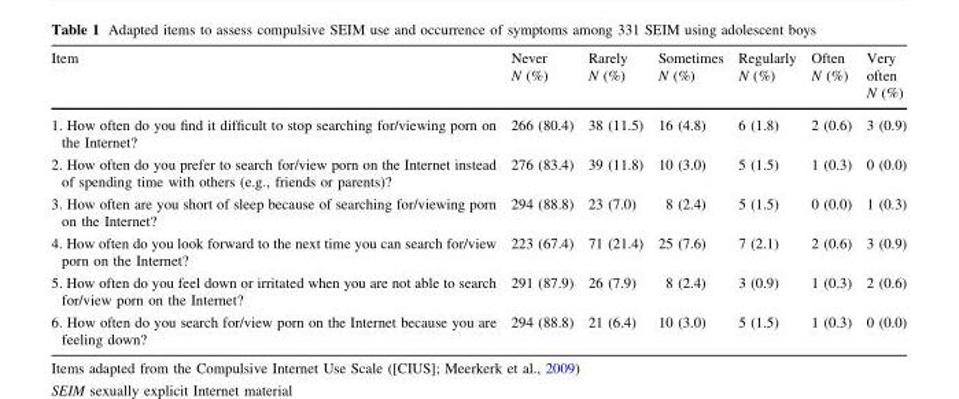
<table><thead><tr><td>Item</td><td>Never N (%)</td><td>Rarely N (%)</td><td>Sometimes N (%)</td><td>Regularly N (%)</td><td>Often N (%)</td><td>Very often N (%)</td></tr></thead><tbody><tr><td>1. How often do you find it difficult to stop searching for/viewing porn on the Internet?</td><td>266 (80.4)</td><td>38 (11.5)</td><td>16 (4.8)</td><td>6 (1.8)</td><td>2 (0.6)</td><td>3 (0.9)</td></tr><tr><td>2. How often do you prefer to search for/view porn on the Internet instead of spending time with others (e.g., friends or parents)?</td><td>276 (83.4)</td><td>39 (11.8)</td><td>10 (3.0)</td><td>5 (1.5)</td><td>1 (0.3)</td><td>0 (0.0)</td></tr><tr><td>3. How often are you short of sleep because of searching for/viewing porn on the Internet?</td><td>294 (88.8)</td><td>23 (7.0)</td><td>8 (2.4)</td><td>5 (1.5)</td><td>0 (0.0)</td><td>1 (0.3)</td></tr><tr><td>4. How often do you look forward to the next time you can search for/view porn on the Internet?</td><td>223 (67.4)</td><td>71 (21.4)</td><td>25 (7.6)</td><td>7 (2.1)</td><td>2 (0.6)</td><td>3 (0.9)</td></tr><tr><td>5. How often do you feel down or irritated when you are not able to search for/view porn on the Internet?</td><td>291 (87.9)</td><td>26 (7.9)</td><td>8 (2.4)</td><td>3 (0.9)</td><td>1 (0.3)</td><td>2 (0.6)</td></tr><tr><td>6. How often do you search for/view porn on the Internet because you are feeling down?</td><td>294 (88.8)</td><td>21 (6.4)</td><td>10 (3.0)</td><td>5 (1.5)</td><td>1 (0.3)</td><td>0 (0.0)</td></tr></tbody></table>